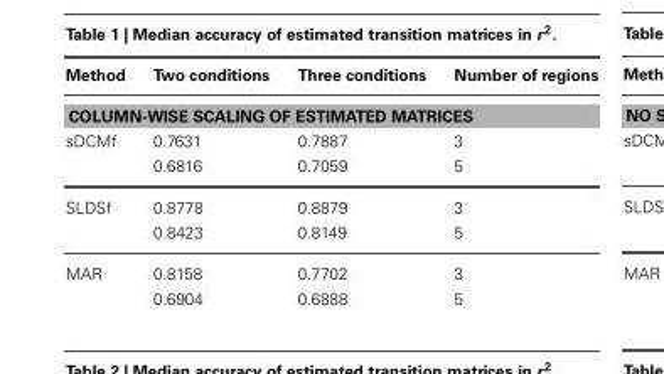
<table><thead><tr><td>Method</td><td>Two conditions</td><td>Three conditions</td><td>Number of regions</td></tr></thead><tbody><tr><td colspan="4">COLUMN-WISE SCALING OF ESTIMATED MATRICES</td></tr><tr><td rowspan="2">sDCMf</td><td>0.7631</td><td>0.7887</td><td>3</td></tr><tr><td>0.6816</td><td>0.7059</td><td>5</td></tr><tr><td rowspan="2">SLDSf</td><td>0.8778</td><td>0.8879</td><td>3</td></tr><tr><td>0.8423</td><td>0.8149</td><td>5</td></tr><tr><td rowspan="2">MAR</td><td>0.8158</td><td>0.7702</td><td>3</td></tr><tr><td>0.6904</td><td>0.6888</td><td>5</td></tr></tbody></table>